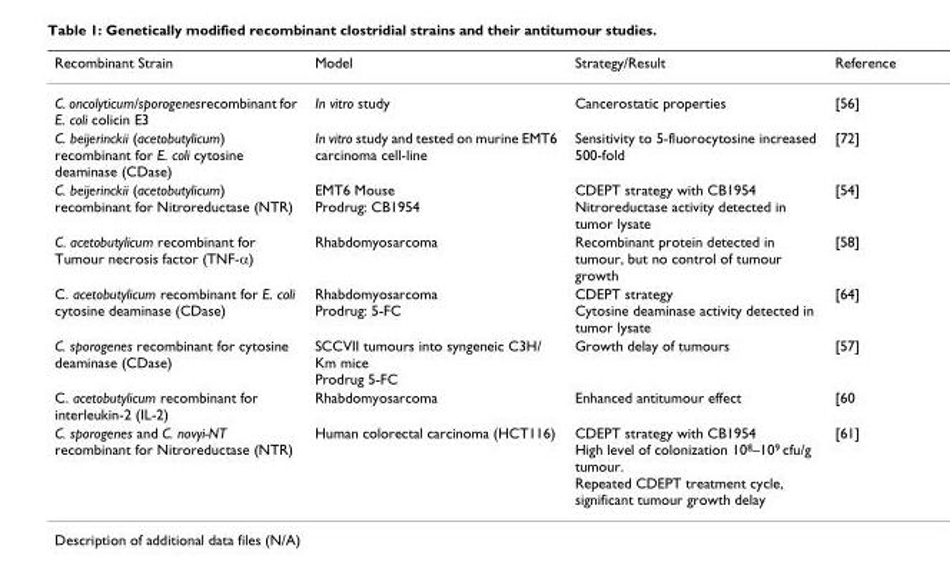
<table><thead><tr><td>Recombinant Strain</td><td>Model</td><td>Strategy/Result</td><td>Reference</td></tr></thead><tbody><tr><td>C. oncolyticum/sporogenesrecombinant for E. coli colicin E3</td><td>In vitro study</td><td>Cancerostatic properties</td><td>[56]</td></tr><tr><td>C. beijerinckii (acetobutylicum) recombinant for E. coli cytosine deaminase (CDase)</td><td>In vitro study and tested on murine EMT6 carcinoma cell-line</td><td>Sensitivity to 5-fluorocytosine increased 500-fold</td><td>[72]</td></tr><tr><td>C. beijerinckii (acetobutylicum) recombinant for Nitroreductase (NTR)</td><td>EMT6 Mouse Prodrug: CB1954</td><td>CDEPT strategy with CB1954 Nitroreductase activity detected in tumor lysate</td><td>[54]</td></tr><tr><td>C. acetobutylicum recombinant for Tumour necrosis factor (TNF-α)</td><td>Rhabdomyosarcoma</td><td>Recombinant protein detected in tumour, but no control of tumour growth</td><td>[58]</td></tr><tr><td>C. acetobutylicum recombinant for E. coli cytosine deaminase (CDase)</td><td>Rhabdomyosarcoma Prodrug: 5-FC</td><td>CDEPT strategy Cytosine deaminase activity detected in tumor lysate</td><td>[64]</td></tr><tr><td>C. sporogenes recombinant for cytosine deaminase (CDase)</td><td>SCCVII tumours into syngeneic C3H/ Km mice Prodrug 5-FC</td><td>Growth delay of tumours</td><td>[57]</td></tr><tr><td>C. acetobutylicum recombinant for interleukin-2 (IL-2)</td><td>Rhabdomyosarcoma</td><td>Enhanced antitumour effect</td><td>[60</td></tr><tr><td>C. sporogenes and C. novyi-NT recombinant for Nitroreductase (NTR)</td><td>Human colorectal carcinoma (HCT116)</td><td>CDEPT strategy with CB1954 High level of colonization 10<sup>8</sup>–10<sup>9</sup> cfu/g tumour. Repeated CDEPT treatment cycle, significant tumour growth delay</td><td>[61]</td></tr></tbody></table>